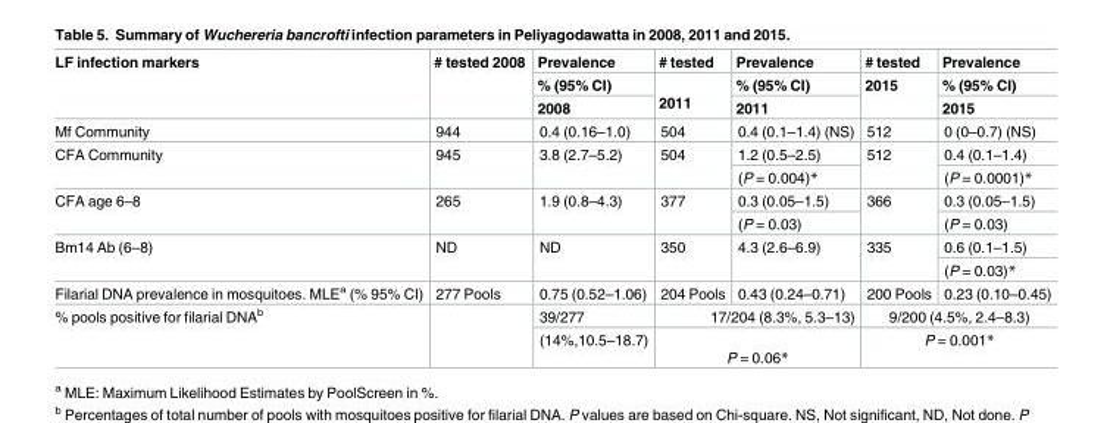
<table><thead><tr><td rowspan="3">LF infection markers</td><td rowspan="3"># tested 2008</td><td rowspan="3">Prevalence % (95% CI) 2008</td><td rowspan="3"># tested 2011</td><td rowspan="3">Prevalence % (95% CI) 2011</td><td rowspan="3"># tested 2015</td><td rowspan="3">Prevalence % (95% CI) 2015</td></tr><tr></tr><tr></tr></thead><tbody><tr><td>Mf Community</td><td>944</td><td>0.4 (0.16–1.0)</td><td>504</td><td>0.4 (0.1–1.4) (NS)</td><td>512</td><td>0 (0–0.7) (NS)</td></tr><tr><td rowspan="2">CFA Community</td><td rowspan="2">945</td><td rowspan="2">3.8 (2.7–5.2)</td><td rowspan="2">504</td><td>1.2 (0.5–2.5)</td><td rowspan="2">512</td><td>0.4 (0.1–1.4)</td></tr><tr><td>(P = 0.004)*</td><td>(P = 0.0001)*</td></tr><tr><td rowspan="2">CFA age 6–8</td><td rowspan="2">265</td><td rowspan="2">1.9 (0.8–4.3)</td><td rowspan="2">377</td><td>0.3 (0.05–1.5)</td><td rowspan="2">366</td><td>0.3 (0.05–1.5)</td></tr><tr><td>(P = 0.03)</td><td>(P = 0.03)</td></tr><tr><td rowspan="2">Bm14 Ab (6–8)</td><td rowspan="2">ND</td><td rowspan="2">ND</td><td rowspan="2">350</td><td rowspan="2">4.3 (2.6–6.9)</td><td rowspan="2">335</td><td>0.6 (0.1–1.5)</td></tr><tr><td>(P = 0.03)*</td></tr><tr><td>Filarial DNA prevalence in mosquitoes. MLE<sup>a</sup> (% 95% CI)</td><td>277 Pools</td><td>0.75 (0.52–1.06)</td><td>204 Pools</td><td>0.43 (0.24–0.71)</td><td>200 Pools</td><td>0.23 (0.10–0.45)</td></tr><tr><td rowspan="2">% pools positive for filarial DNA<sup>b</sup></td><td rowspan="2"></td><td>39/277</td><td colspan="2">17/204 (8.3%, 5.3–13)</td><td colspan="2">9/200 (4.5%, 2.4–8.3)</td></tr><tr><td>(14%,10.5–18.7)</td><td colspan="2">P = 0.06*</td><td colspan="2">P = 0.001*</td></tr></tbody></table>